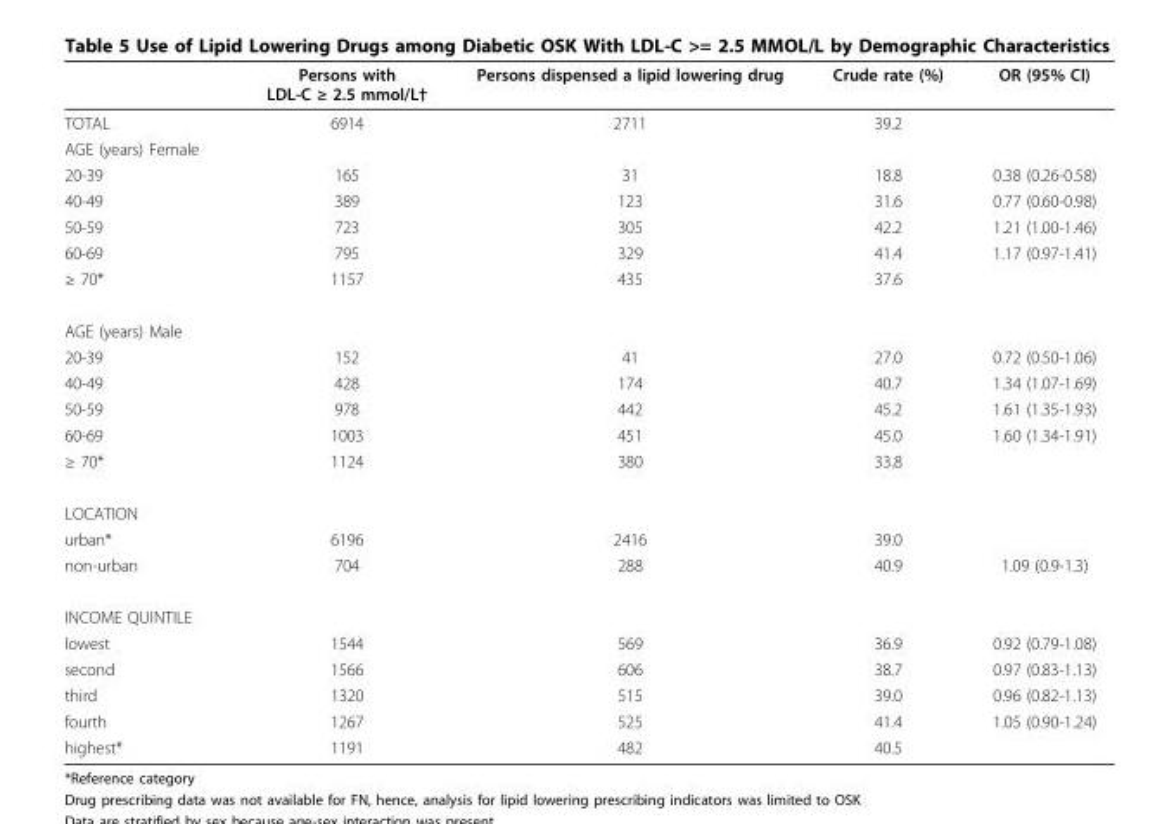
<table><thead><tr><td></td><td>Persons with LDL-C ≥ 2.5 mmol/L†</td><td>Persons dispensed a lipid lowering drug</td><td>Crude rate (%)</td><td>OR (95% CI)</td></tr></thead><tbody><tr><td>TOTAL</td><td>6914</td><td>2711</td><td>39.2</td><td></td></tr><tr><td colspan="5">AGE (years) Female</td></tr><tr><td>20-39</td><td>165</td><td>31</td><td>18.8</td><td>0.38 (0.26-0.58)</td></tr><tr><td>40-49</td><td>389</td><td>123</td><td>31.6</td><td>0.77 (0.60-0.98)</td></tr><tr><td>50-59</td><td>723</td><td>305</td><td>42.2</td><td>1.21 (1.00-1.46)</td></tr><tr><td>60-69</td><td>795</td><td>329</td><td>41.4</td><td>1.17 (0.97-1.41)</td></tr><tr><td>≥ 70*</td><td>1157</td><td>435</td><td>37.6</td><td></td></tr><tr><td colspan="5">AGE (years) Male</td></tr><tr><td>20-39</td><td>152</td><td>41</td><td>27.0</td><td>0.72 (0.50-1.06)</td></tr><tr><td>40-49</td><td>428</td><td>174</td><td>40.7</td><td>1.34 (1.07-1.69)</td></tr><tr><td>50-59</td><td>978</td><td>442</td><td>45.2</td><td>1.61 (1.35-1.93)</td></tr><tr><td>60-69</td><td>1003</td><td>451</td><td>45.0</td><td>1.60 (1.34-1.91)</td></tr><tr><td>≥ 70*</td><td>1124</td><td>380</td><td>33.8</td><td></td></tr><tr><td colspan="5">LOCATION</td></tr><tr><td>urban*</td><td>6196</td><td>2416</td><td>39.0</td><td></td></tr><tr><td>non-urban</td><td>704</td><td>288</td><td>40.9</td><td>1.09 (0.9-1.3)</td></tr><tr><td colspan="5">INCOME QUINTILE</td></tr><tr><td>lowest</td><td>1544</td><td>569</td><td>36.9</td><td>0.92 (0.79-1.08)</td></tr><tr><td>second</td><td>1566</td><td>606</td><td>38.7</td><td>0.97 (0.83-1.13)</td></tr><tr><td>third</td><td>1320</td><td>515</td><td>39.0</td><td>0.96 (0.82-1.13)</td></tr><tr><td>fourth</td><td>1267</td><td>525</td><td>41.4</td><td>1.05 (0.90-1.24)</td></tr><tr><td>highest*</td><td>1191</td><td>482</td><td>40.5</td><td></td></tr></tbody></table>